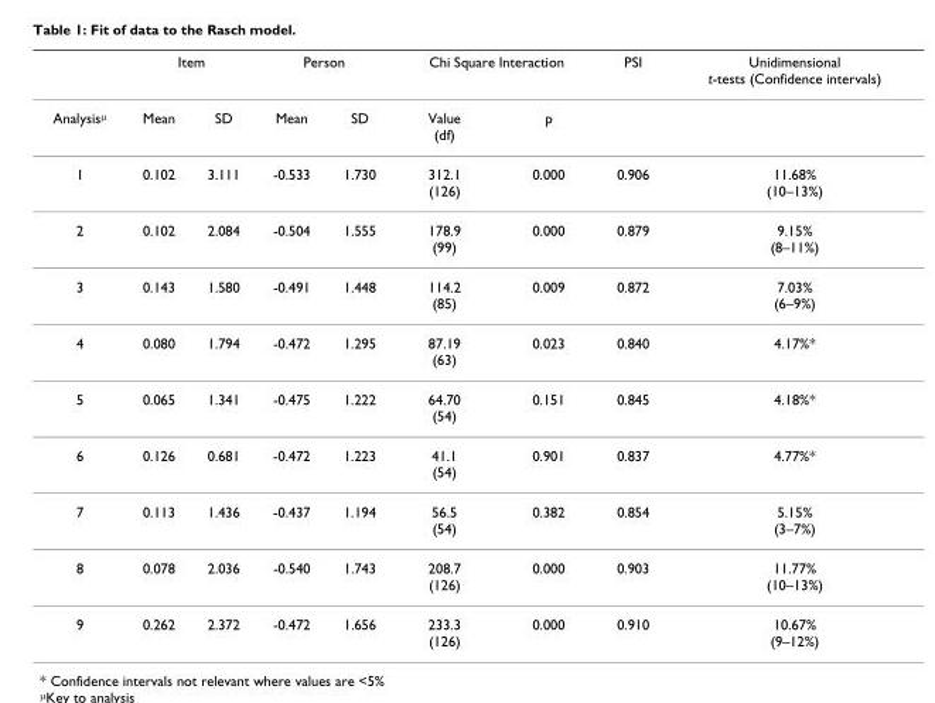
<table><thead><tr><td rowspan="2">Analysis<sup>μ</sup></td><td colspan="2">Item</td><td colspan="2">Person</td><td colspan="2">Chi Square Interaction</td><td rowspan="2">PSI</td><td rowspan="2">Unidimensional t-tests (Confidence intervals)</td></tr><tr><td>Mean</td><td>SD</td><td>Mean</td><td>SD</td><td>Value (df)</td><td>p</td></tr></thead><tbody><tr><td>1</td><td>0.102</td><td>3.111</td><td>-0.533</td><td>1.730</td><td>312.1 (126)</td><td>0.000</td><td>0.906</td><td>11.68% (10–13%)</td></tr><tr><td>2</td><td>0.102</td><td>2.084</td><td>-0.504</td><td>1.555</td><td>178.9 (99)</td><td>0.000</td><td>0.879</td><td>9.15% (8–11%)</td></tr><tr><td>3</td><td>0.143</td><td>1.580</td><td>-0.491</td><td>1.448</td><td>114.2 (85)</td><td>0.009</td><td>0.872</td><td>7.03% (6–9%)</td></tr><tr><td>4</td><td>0.080</td><td>1.794</td><td>-0.472</td><td>1.295</td><td>87.19 (63)</td><td>0.023</td><td>0.840</td><td>4.17%*</td></tr><tr><td>5</td><td>0.065</td><td>1.341</td><td>-0.475</td><td>1.222</td><td>64.70 (54)</td><td>0.151</td><td>0.845</td><td>4.18%*</td></tr><tr><td>6</td><td>0.126</td><td>0.681</td><td>-0.472</td><td>1.223</td><td>41.1 (54)</td><td>0.901</td><td>0.837</td><td>4.77%*</td></tr><tr><td>7</td><td>0.113</td><td>1.436</td><td>-0.437</td><td>1.194</td><td>56.5 (54)</td><td>0.382</td><td>0.854</td><td>5.15% (3–7%)</td></tr><tr><td>8</td><td>0.078</td><td>2.036</td><td>-0.540</td><td>1.743</td><td>208.7 (126)</td><td>0.000</td><td>0.903</td><td>11.77% (10–13%)</td></tr><tr><td>9</td><td>0.262</td><td>2.372</td><td>-0.472</td><td>1.656</td><td>233.3 (126)</td><td>0.000</td><td>0.910</td><td>10.67% (9–12%)</td></tr></tbody></table>